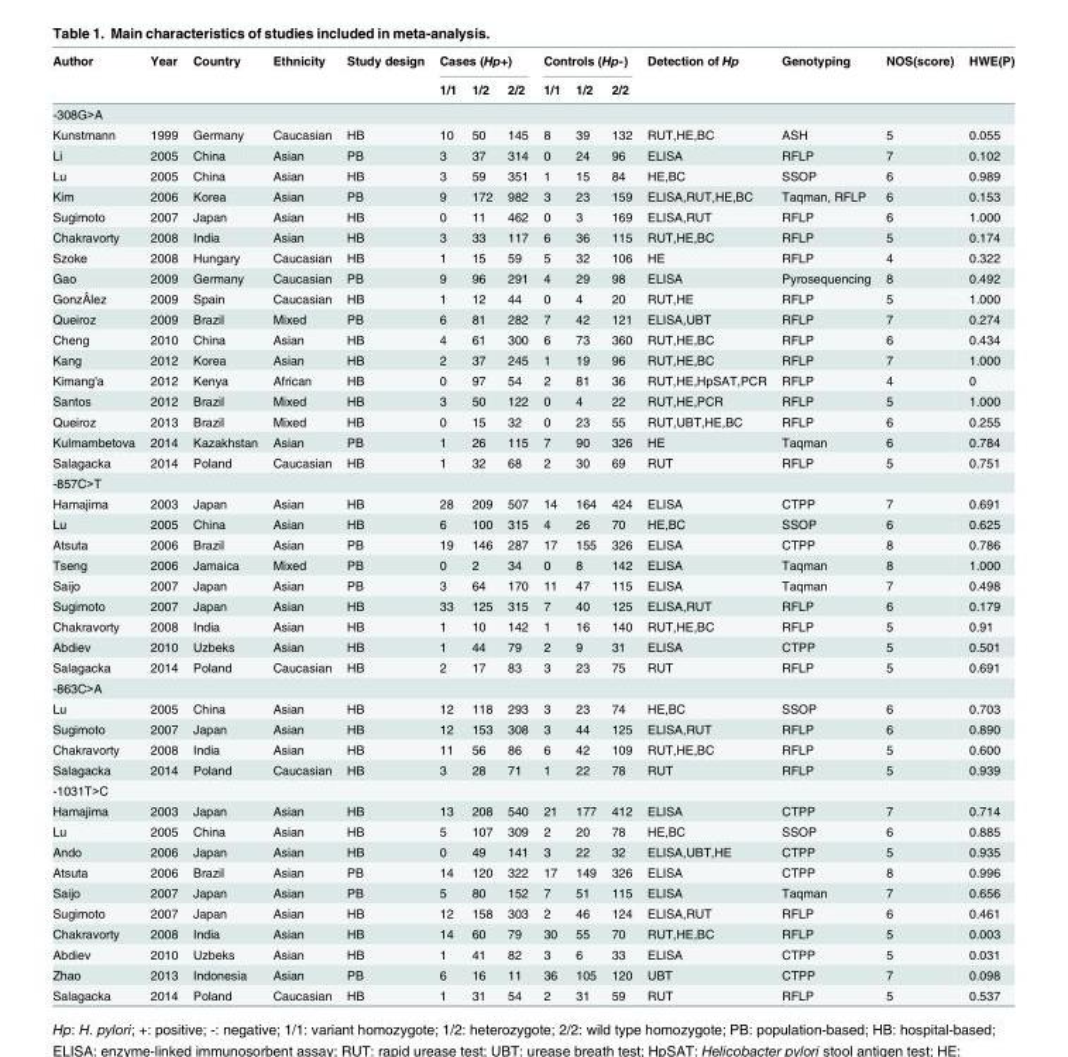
<table><thead><tr><td rowspan="2">Author</td><td rowspan="2">Year</td><td rowspan="2">Country</td><td rowspan="2">Ethnicity</td><td rowspan="2">Study design</td><td colspan="3">Cases (Hp+)</td><td colspan="3">Controls (Hp-)</td><td rowspan="2">Detection of Hp</td><td rowspan="2">Genotyping</td><td rowspan="2">NOS(score)</td><td rowspan="2">HWE(P)</td></tr><tr><td>1/1</td><td>1/2</td><td>2/2</td><td>1/1</td><td>1/2</td><td>2/2</td></tr></thead><tbody><tr><td colspan="15">-308G&gt;A</td></tr><tr><td>Kunstmann</td><td>1999</td><td>Germany</td><td>Caucasian</td><td>HB</td><td>10</td><td>50</td><td>145</td><td>8</td><td>39</td><td>132</td><td>RUT,HE,BC</td><td>ASH</td><td>5</td><td>0.055</td></tr><tr><td>Li</td><td>2005</td><td>China</td><td>Asian</td><td>PB</td><td>3</td><td>37</td><td>314</td><td>0</td><td>24</td><td>96</td><td>ELISA</td><td>RFLP</td><td>7</td><td>0.102</td></tr><tr><td>Lu</td><td>2005</td><td>China</td><td>Asian</td><td>HB</td><td>3</td><td>59</td><td>351</td><td>1</td><td>15</td><td>84</td><td>HE,BC</td><td>SSOP</td><td>6</td><td>0.989</td></tr><tr><td>Kim</td><td>2006</td><td>Korea</td><td>Asian</td><td>PB</td><td>9</td><td>172</td><td>982</td><td>3</td><td>23</td><td>159</td><td>ELISA,RUT,HE,BC</td><td>Taqman, RFLP</td><td>6</td><td>0.153</td></tr><tr><td>Sugimoto</td><td>2007</td><td>Japan</td><td>Asian</td><td>HB</td><td>0</td><td>11</td><td>462</td><td>0</td><td>3</td><td>169</td><td>ELISA,RUT</td><td>RFLP</td><td>6</td><td>1.000</td></tr><tr><td>Chakravorty</td><td>2008</td><td>India</td><td>Asian</td><td>HB</td><td>3</td><td>33</td><td>117</td><td>6</td><td>36</td><td>115</td><td>RUT,HE,BC</td><td>RFLP</td><td>5</td><td>0.174</td></tr><tr><td>Szoke</td><td>2008</td><td>Hungary</td><td>Caucasian</td><td>HB</td><td>1</td><td>15</td><td>59</td><td>5</td><td>32</td><td>106</td><td>HE</td><td>RFLP</td><td>4</td><td>0.322</td></tr><tr><td>Gao</td><td>2009</td><td>Germany</td><td>Caucasian</td><td>PB</td><td>9</td><td>96</td><td>291</td><td>4</td><td>29</td><td>98</td><td>ELISA</td><td>Pyrosequencing</td><td>8</td><td>0.492</td></tr><tr><td>GonzÂlez</td><td>2009</td><td>Spain</td><td>Caucasian</td><td>HB</td><td>1</td><td>12</td><td>44</td><td>0</td><td>4</td><td>20</td><td>RUT,HE</td><td>RFLP</td><td>5</td><td>1.000</td></tr><tr><td>Queiroz</td><td>2009</td><td>Brazil</td><td>Mixed</td><td>PB</td><td>6</td><td>81</td><td>282</td><td>7</td><td>42</td><td>121</td><td>ELISA,UBT</td><td>RFLP</td><td>7</td><td>0.274</td></tr><tr><td>Cheng</td><td>2010</td><td>China</td><td>Asian</td><td>HB</td><td>4</td><td>61</td><td>300</td><td>6</td><td>73</td><td>360</td><td>RUT,HE,BC</td><td>RFLP</td><td>6</td><td>0.434</td></tr><tr><td>Kang</td><td>2012</td><td>Korea</td><td>Asian</td><td>HB</td><td>2</td><td>37</td><td>245</td><td>1</td><td>19</td><td>96</td><td>RUT,HE,BC</td><td>RFLP</td><td>7</td><td>1.000</td></tr><tr><td>Kimang&#x27;a</td><td>2012</td><td>Kenya</td><td>African</td><td>HB</td><td>0</td><td>97</td><td>54</td><td>2</td><td>81</td><td>36</td><td>RUT,HE,HpSAT,PCR</td><td>RFLP</td><td>4</td><td>0</td></tr><tr><td>Santos</td><td>2012</td><td>Brazil</td><td>Mixed</td><td>HB</td><td>3</td><td>50</td><td>122</td><td>0</td><td>4</td><td>22</td><td>RUT,HE,PCR</td><td>RFLP</td><td>5</td><td>1.000</td></tr><tr><td>Queiroz</td><td>2013</td><td>Brazil</td><td>Mixed</td><td>HB</td><td>0</td><td>15</td><td>32</td><td>0</td><td>23</td><td>55</td><td>RUT,UBT,HE,BC</td><td>RFLP</td><td>6</td><td>0.255</td></tr><tr><td>Kulmambetova</td><td>2014</td><td>Kazakhstan</td><td>Asian</td><td>PB</td><td>1</td><td>26</td><td>115</td><td>7</td><td>90</td><td>326</td><td>HE</td><td>Taqman</td><td>6</td><td>0.784</td></tr><tr><td>Salagacka</td><td>2014</td><td>Poland</td><td>Caucasian</td><td>HB</td><td>1</td><td>32</td><td>68</td><td>2</td><td>30</td><td>69</td><td>RUT</td><td>RFLP</td><td>5</td><td>0.751</td></tr><tr><td colspan="15">-857C&gt;T</td></tr><tr><td>Hamajima</td><td>2003</td><td>Japan</td><td>Asian</td><td>HB</td><td>28</td><td>209</td><td>507</td><td>14</td><td>164</td><td>424</td><td>ELISA</td><td>CTPP</td><td>7</td><td>0.691</td></tr><tr><td>Lu</td><td>2005</td><td>China</td><td>Asian</td><td>HB</td><td>6</td><td>100</td><td>315</td><td>4</td><td>26</td><td>70</td><td>HE,BC</td><td>SSOP</td><td>6</td><td>0.625</td></tr><tr><td>Atsuta</td><td>2006</td><td>Brazil</td><td>Asian</td><td>PB</td><td>19</td><td>146</td><td>287</td><td>17</td><td>155</td><td>326</td><td>ELISA</td><td>CTPP</td><td>8</td><td>0.786</td></tr><tr><td>Tseng</td><td>2006</td><td>Jamaica</td><td>Mixed</td><td>PB</td><td>0</td><td>2</td><td>34</td><td>0</td><td>8</td><td>142</td><td>ELISA</td><td>Taqman</td><td>8</td><td>1.000</td></tr><tr><td>Saijo</td><td>2007</td><td>Japan</td><td>Asian</td><td>PB</td><td>3</td><td>64</td><td>170</td><td>11</td><td>47</td><td>115</td><td>ELISA</td><td>Taqman</td><td>7</td><td>0.498</td></tr><tr><td>Sugimoto</td><td>2007</td><td>Japan</td><td>Asian</td><td>HB</td><td>33</td><td>125</td><td>315</td><td>7</td><td>40</td><td>125</td><td>ELISA,RUT</td><td>RFLP</td><td>6</td><td>0.179</td></tr><tr><td>Chakravorty</td><td>2008</td><td>India</td><td>Asian</td><td>HB</td><td>1</td><td>10</td><td>142</td><td>1</td><td>16</td><td>140</td><td>RUT,HE,BC</td><td>RFLP</td><td>5</td><td>0.91</td></tr><tr><td>Abdiev</td><td>2010</td><td>Uzbeks</td><td>Asian</td><td>HB</td><td>1</td><td>44</td><td>79</td><td>2</td><td>9</td><td>31</td><td>ELISA</td><td>CTPP</td><td>5</td><td>0.501</td></tr><tr><td>Salagacka</td><td>2014</td><td>Poland</td><td>Caucasian</td><td>HB</td><td>2</td><td>17</td><td>83</td><td>3</td><td>23</td><td>75</td><td>RUT</td><td>RFLP</td><td>5</td><td>0.691</td></tr><tr><td colspan="15">-863C&gt;A</td></tr><tr><td>Lu</td><td>2005</td><td>China</td><td>Asian</td><td>HB</td><td>12</td><td>118</td><td>293</td><td>3</td><td>23</td><td>74</td><td>HE,BC</td><td>SSOP</td><td>6</td><td>0.703</td></tr><tr><td>Sugimoto</td><td>2007</td><td>Japan</td><td>Asian</td><td>HB</td><td>12</td><td>153</td><td>308</td><td>3</td><td>44</td><td>125</td><td>ELISA,RUT</td><td>RFLP</td><td>6</td><td>0.890</td></tr><tr><td>Chakravorty</td><td>2008</td><td>India</td><td>Asian</td><td>HB</td><td>11</td><td>56</td><td>86</td><td>6</td><td>42</td><td>109</td><td>RUT,HE,BC</td><td>RFLP</td><td>5</td><td>0.600</td></tr><tr><td>Salagacka</td><td>2014</td><td>Poland</td><td>Caucasian</td><td>HB</td><td>3</td><td>28</td><td>71</td><td>1</td><td>22</td><td>78</td><td>RUT</td><td>RFLP</td><td>5</td><td>0.939</td></tr><tr><td colspan="15">-1031T&gt;C</td></tr><tr><td>Hamajima</td><td>2003</td><td>Japan</td><td>Asian</td><td>HB</td><td>13</td><td>208</td><td>540</td><td>21</td><td>177</td><td>412</td><td>ELISA</td><td>CTPP</td><td>7</td><td>0.714</td></tr><tr><td>Lu</td><td>2005</td><td>China</td><td>Asian</td><td>HB</td><td>5</td><td>107</td><td>309</td><td>2</td><td>20</td><td>78</td><td>HE,BC</td><td>SSOP</td><td>6</td><td>0.885</td></tr><tr><td>Ando</td><td>2006</td><td>Japan</td><td>Asian</td><td>HB</td><td>0</td><td>49</td><td>141</td><td>3</td><td>22</td><td>32</td><td>ELISA,UBT,HE</td><td>CTPP</td><td>5</td><td>0.935</td></tr><tr><td>Atsuta</td><td>2006</td><td>Brazil</td><td>Asian</td><td>PB</td><td>14</td><td>120</td><td>322</td><td>17</td><td>149</td><td>326</td><td>ELISA</td><td>CTPP</td><td>8</td><td>0.996</td></tr><tr><td>Saijo</td><td>2007</td><td>Japan</td><td>Asian</td><td>PB</td><td>5</td><td>80</td><td>152</td><td>7</td><td>51</td><td>115</td><td>ELISA</td><td>Taqman</td><td>7</td><td>0.656</td></tr><tr><td>Sugimoto</td><td>2007</td><td>Japan</td><td>Asian</td><td>HB</td><td>12</td><td>158</td><td>303</td><td>2</td><td>46</td><td>124</td><td>ELISA,RUT</td><td>RFLP</td><td>6</td><td>0.461</td></tr><tr><td>Chakravorty</td><td>2008</td><td>India</td><td>Asian</td><td>HB</td><td>14</td><td>60</td><td>79</td><td>30</td><td>55</td><td>70</td><td>RUT,HE,BC</td><td>RFLP</td><td>5</td><td>0.003</td></tr><tr><td>Abdiev</td><td>2010</td><td>Uzbeks</td><td>Asian</td><td>HB</td><td>1</td><td>41</td><td>82</td><td>3</td><td>6</td><td>33</td><td>ELISA</td><td>CTPP</td><td>5</td><td>0.031</td></tr><tr><td>Zhao</td><td>2013</td><td>Indonesia</td><td>Asian</td><td>PB</td><td>6</td><td>16</td><td>11</td><td>36</td><td>105</td><td>120</td><td>UBT</td><td>CTPP</td><td>7</td><td>0.098</td></tr><tr><td>Salagacka</td><td>2014</td><td>Poland</td><td>Caucasian</td><td>HB</td><td>1</td><td>31</td><td>54</td><td>2</td><td>31</td><td>59</td><td>RUT</td><td>RFLP</td><td>5</td><td>0.537</td></tr></tbody></table>